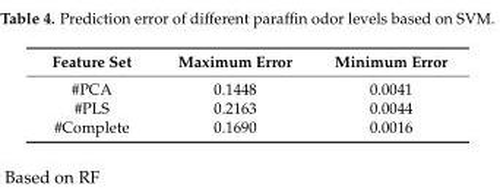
<table><thead><tr><td>Feature Set</td><td>Maximum Error</td><td>Minimum Error</td></tr></thead><tbody><tr><td>#PCA</td><td>0.1448</td><td>0.0041</td></tr><tr><td>#PLS</td><td>0.2163</td><td>0.0044</td></tr><tr><td>#Complete</td><td>0.1690</td><td>0.0016</td></tr></tbody></table>